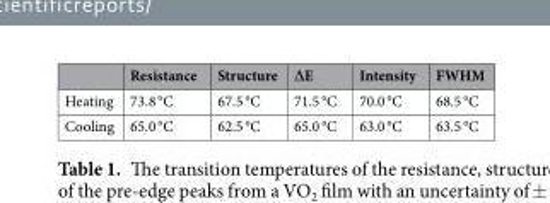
<table><thead><tr><td></td><td>Resistance</td><td>Structure</td><td>∆E</td><td>Intensity</td><td>FWHM</td></tr></thead><tbody><tr><td>Heating</td><td>73.8 °C</td><td>67.5 °C</td><td>71.5 °C</td><td>70.0 °C</td><td>68.5 °C</td></tr><tr><td>Cooling</td><td>65.0 °C</td><td>62.5 °C</td><td>65.0 °C</td><td>63.0 °C</td><td>63.5 °C</td></tr></tbody></table>